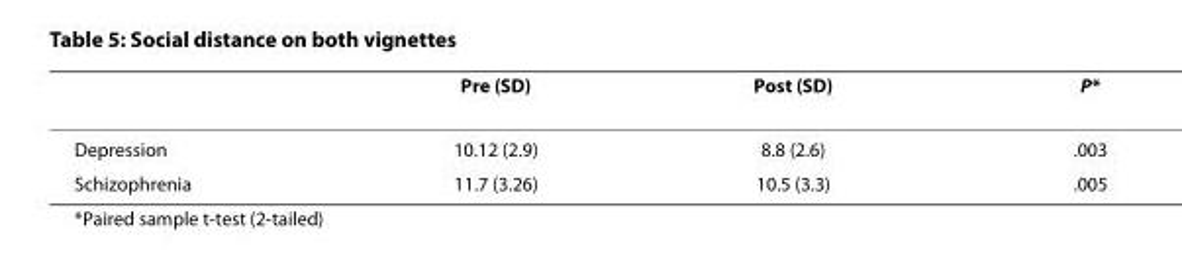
<table><thead><tr><td></td><td>Pre (SD)</td><td>Post (SD)</td><td>P*</td></tr></thead><tbody><tr><td>Depression</td><td>10.12 (2.9)</td><td>8.8 (2.6)</td><td>.003</td></tr><tr><td>Schizophrenia</td><td>11.7 (3.26)</td><td>10.5 (3.3)</td><td>.005</td></tr></tbody></table>